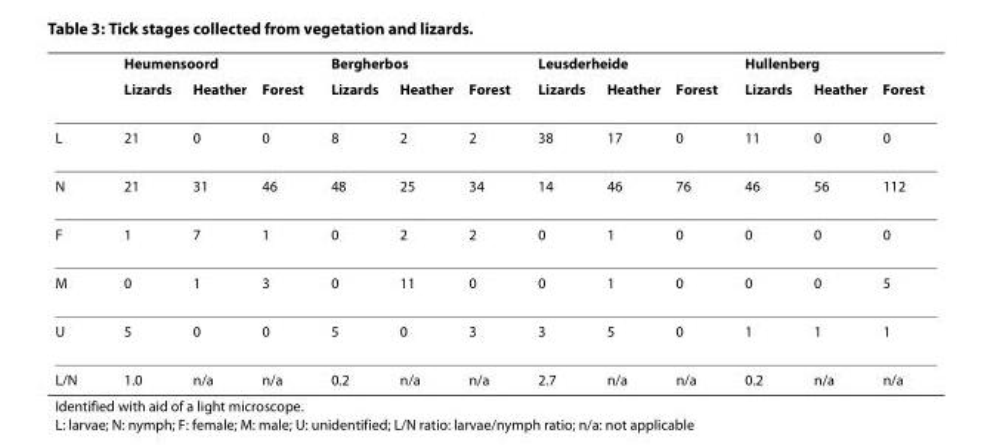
<table><thead><tr><td rowspan="2"></td><td colspan="3">Heumensoord</td><td colspan="3">Bergherbos</td><td colspan="3">Leusderheide</td><td colspan="3">Hullenberg</td></tr><tr><td>Lizards</td><td>Heather</td><td>Forest</td><td>Lizards</td><td>Heather</td><td>Forest</td><td>Lizards</td><td>Heather</td><td>Forest</td><td>Lizards</td><td>Heather</td><td>Forest</td></tr></thead><tbody><tr><td>L</td><td>21</td><td>0</td><td>0</td><td>8</td><td>2</td><td>2</td><td>38</td><td>17</td><td>0</td><td>11</td><td>0</td><td>0</td></tr><tr><td>N</td><td>21</td><td>31</td><td>46</td><td>48</td><td>25</td><td>34</td><td>14</td><td>46</td><td>76</td><td>46</td><td>56</td><td>112</td></tr><tr><td>F</td><td>1</td><td>7</td><td>1</td><td>0</td><td>2</td><td>2</td><td>0</td><td>1</td><td>0</td><td>0</td><td>0</td><td>0</td></tr><tr><td>M</td><td>0</td><td>1</td><td>3</td><td>0</td><td>11</td><td>0</td><td>0</td><td>1</td><td>0</td><td>0</td><td>0</td><td>5</td></tr><tr><td>U</td><td>5</td><td>0</td><td>0</td><td>5</td><td>0</td><td>3</td><td>3</td><td>5</td><td>0</td><td>1</td><td>1</td><td>1</td></tr><tr><td>L/N</td><td>1.0</td><td>n/a</td><td>n/a</td><td>0.2</td><td>n/a</td><td>n/a</td><td>2.7</td><td>n/a</td><td>n/a</td><td>0.2</td><td>n/a</td><td>n/a</td></tr></tbody></table>